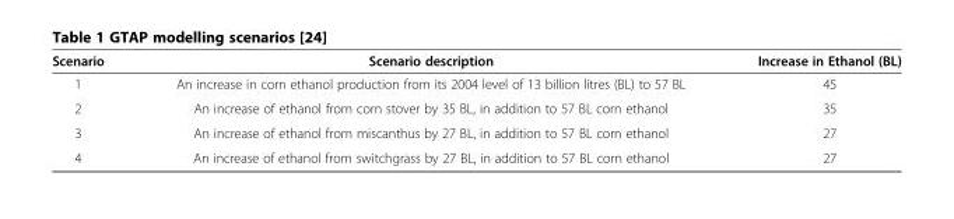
<table><thead><tr><td>Scenario</td><td>Scenario description</td><td>Increase in Ethanol (BL)</td></tr></thead><tbody><tr><td>1</td><td>An increase in corn ethanol production from its 2004 level of 13 billion litres (BL) to 57 BL</td><td>45</td></tr><tr><td>2</td><td>An increase of ethanol from corn stover by 35 BL, in addition to 57 BL corn ethanol</td><td>35</td></tr><tr><td>3</td><td>An increase of ethanol from miscanthus by 27 BL, in addition to 57 BL corn ethanol</td><td>27</td></tr><tr><td>4</td><td>An increase of ethanol from switchgrass by 27 BL, in addition to 57 BL corn ethanol</td><td>27</td></tr></tbody></table>